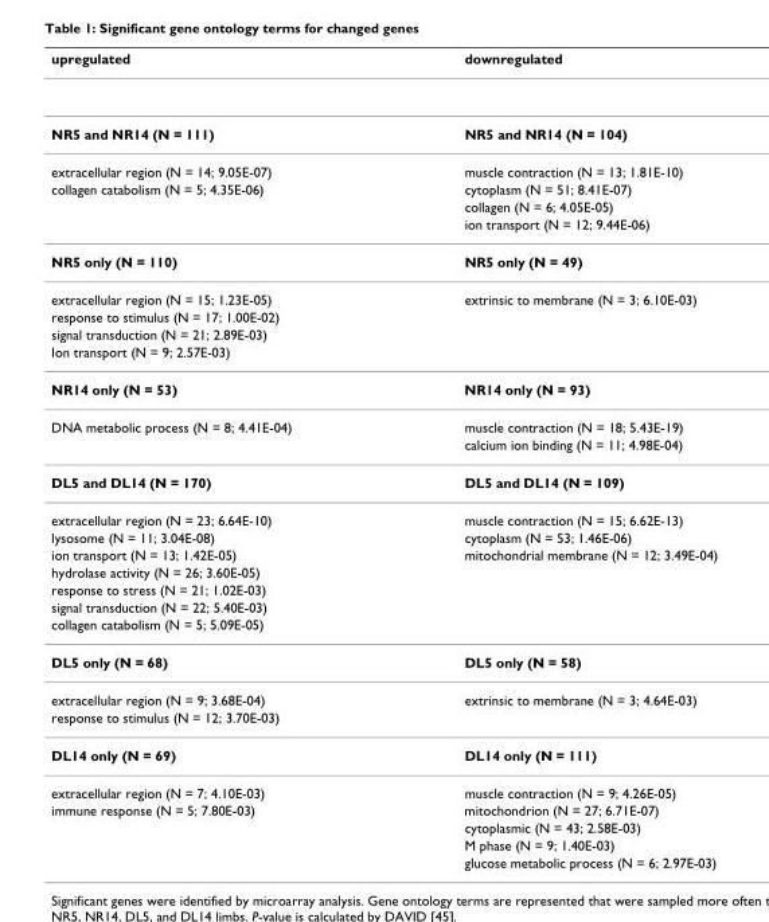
<table><thead><tr><td>upregulated</td><td>downregulated</td></tr></thead><tbody><tr><td>NR5 and NR14 (N = 111)</td><td>NR5 and NR14 (N = 104)</td></tr><tr><td>extracellular region (N = 14; 9.05E-07)</td><td>muscle contraction (N = 13; 1.81E-10)</td></tr><tr><td rowspan="3">collagen catabolism (N = 5; 4.35E-06)</td><td>cytoplasm (N = 51; 8.41E-07)</td></tr><tr><td>collagen (N = 6; 4.05E-05)</td></tr><tr><td>ion transport (N = 12; 9.44E-06)</td></tr><tr><td>NR5 only (N = 110)</td><td>NR5 only (N = 49)</td></tr><tr><td>extracellular region (N = 15; 1.23E-05)</td><td>extrinsic to membrane (N = 3; 6.10E-03)</td></tr><tr><td colspan="2">response to stimulus (N = 17; 1.00E-02)</td></tr><tr><td colspan="2">signal transduction (N = 21; 2.89E-03)</td></tr><tr><td colspan="2">Ion transport (N = 9; 2.57E-03)</td></tr><tr><td>NR14 only (N = 53)</td><td>NR14 only (N = 93)</td></tr><tr><td rowspan="2">DNA metabolic process (N = 8; 4.41E-04)</td><td>muscle contraction (N = 18; 5.43E-19)</td></tr><tr><td>calcium ion binding (N = 11; 4.98E-04)</td></tr><tr><td>DL5 and DL14 (N = 170)</td><td>DL5 and DL14 (N = 109)</td></tr><tr><td>extracellular region (N = 23; 6.64E-10)</td><td>muscle contraction (N = 15; 6.62E-13)</td></tr><tr><td>lysosome (N = 11; 3.04E-08)</td><td>cytoplasm (N = 53; 1.46E-06)</td></tr><tr><td>ion transport (N = 13; 1.42E-05)</td><td>mitochondrial membrane (N = 12; 3.49E-04)</td></tr><tr><td colspan="2">hydrolase activity (N = 26; 3.60E-05)</td></tr><tr><td colspan="2">response to stress (N = 21; 1.02E-03)</td></tr><tr><td colspan="2">signal transduction (N = 22; 5.40E-03)</td></tr><tr><td colspan="2">collagen catabolism (N = 5; 5.09E-05)</td></tr><tr><td>DL5 only (N = 68)</td><td>DL5 only (N = 58)</td></tr><tr><td>extracellular region (N = 9; 3.68E-04)</td><td>extrinsic to membrane (N = 3; 4.64E-03)</td></tr><tr><td colspan="2">response to stimulus (N = 12; 3.70E-03)</td></tr><tr><td>DL14 only (N = 69)</td><td>DL14 only (N = 111)</td></tr><tr><td>extracellular region (N = 7; 4.10E-03)</td><td>muscle contraction (N = 9; 4.26E-05)</td></tr><tr><td rowspan="4">immune response (N = 5; 7.80E-03)</td><td>mitochondrion (N = 27; 6.71E-07)</td></tr><tr><td>cytoplasmic (N = 43; 2.58E-03)</td></tr><tr><td>M phase (N = 9; 1.40E-03)</td></tr><tr><td>glucose metabolic process (N = 6; 2.97E-03)</td></tr></tbody></table>